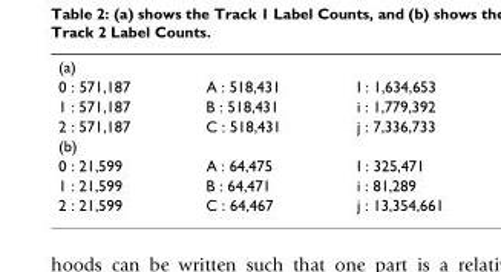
<table><tbody><tr><td colspan="3">(a)</td></tr><tr><td>0 : 571,187</td><td>A : 518,431</td><td>I : 1,634,653</td></tr><tr><td>1 : 571,187</td><td>B : 518,431</td><td>i : 1,779,392</td></tr><tr><td>2 : 571,187</td><td>C : 518,431</td><td>j : 7,336,733</td></tr><tr><td colspan="3">(b)</td></tr><tr><td>0 : 21,599</td><td>A : 64,475</td><td>I : 325,471</td></tr><tr><td>1 : 21,599</td><td>B : 64,471</td><td>i : 81,289</td></tr><tr><td>2 : 21,599</td><td>C : 64,467</td><td>j : 13,354,661</td></tr></tbody></table>